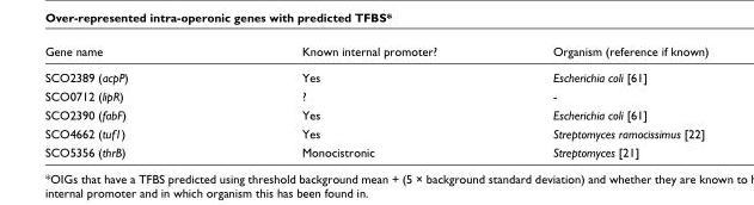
<table><thead><tr><td>Gene name</td><td>Known internal promoter?</td><td>Organism (reference if known)</td></tr></thead><tbody><tr><td>SCO2389 (acpP)</td><td>Yes</td><td>Escherichia coli [61]</td></tr><tr><td>SCO0712 (lipR)</td><td>?</td><td>-</td></tr><tr><td>SCO2390 (fabF)</td><td>Yes</td><td>Escherichia coli [61]</td></tr><tr><td>SCO4662 (tuf1)</td><td>Yes</td><td>Streptomyces ramocissimus [22]</td></tr><tr><td>SCO5356 (thrB)</td><td>Monocistronic</td><td>Streptomyces [21]</td></tr></tbody></table>